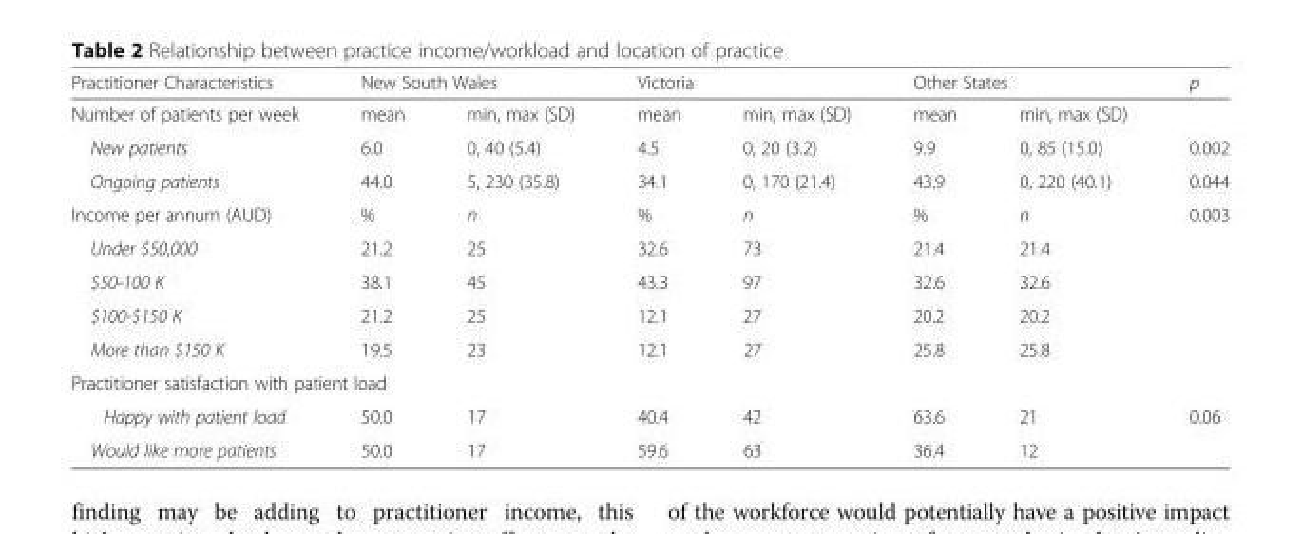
<table><thead><tr><td rowspan="2">Practitioner Characteristics Number of patients per week</td><td colspan="2">New South Wales</td><td colspan="2">Victoria</td><td colspan="2">Other States</td><td rowspan="2">p</td></tr><tr><td>mean</td><td>min, max (SD)</td><td>mean</td><td>min, max (SD)</td><td>mean</td><td>min, max (SD)</td></tr></thead><tbody><tr><td>New patients</td><td>6.0</td><td>0, 40 (5.4)</td><td>4.5</td><td>0, 20 (3.2)</td><td>9.9</td><td>0, 85 (15.0)</td><td>0.002</td></tr><tr><td>Ongoing patients</td><td>44.0</td><td>5, 230 (35.8)</td><td>34.1</td><td>0, 170 (21.4)</td><td>43.9</td><td>0, 220 (40.1)</td><td>0.044</td></tr><tr><td>Income per annum (AUD)</td><td>%</td><td>n</td><td>%</td><td>n</td><td>%</td><td>n</td><td rowspan="5">0.003</td></tr><tr><td>Under $50,000</td><td>21.2</td><td>25</td><td>32.6</td><td>73</td><td>21.4</td><td>21.4</td></tr><tr><td>$50-100 K</td><td>38.1</td><td>45</td><td>43.3</td><td>97</td><td>32.6</td><td>32.6</td></tr><tr><td>$100-$150 K</td><td>21.2</td><td>25</td><td>12.1</td><td>27</td><td>20.2</td><td>20.2</td></tr><tr><td>More than $150 K</td><td>19.5</td><td>23</td><td>12.1</td><td>27</td><td>25.8</td><td>25.8</td></tr><tr><td colspan="8">Practitioner satisfaction with patient load</td></tr><tr><td>Happy with patient load</td><td>50.0</td><td>17</td><td>40.4</td><td>42</td><td>63.6</td><td>21</td><td rowspan="2">0.06</td></tr><tr><td>Would like more patients</td><td>50.0</td><td>17</td><td>59.6</td><td>63</td><td>36.4</td><td>12</td></tr></tbody></table>